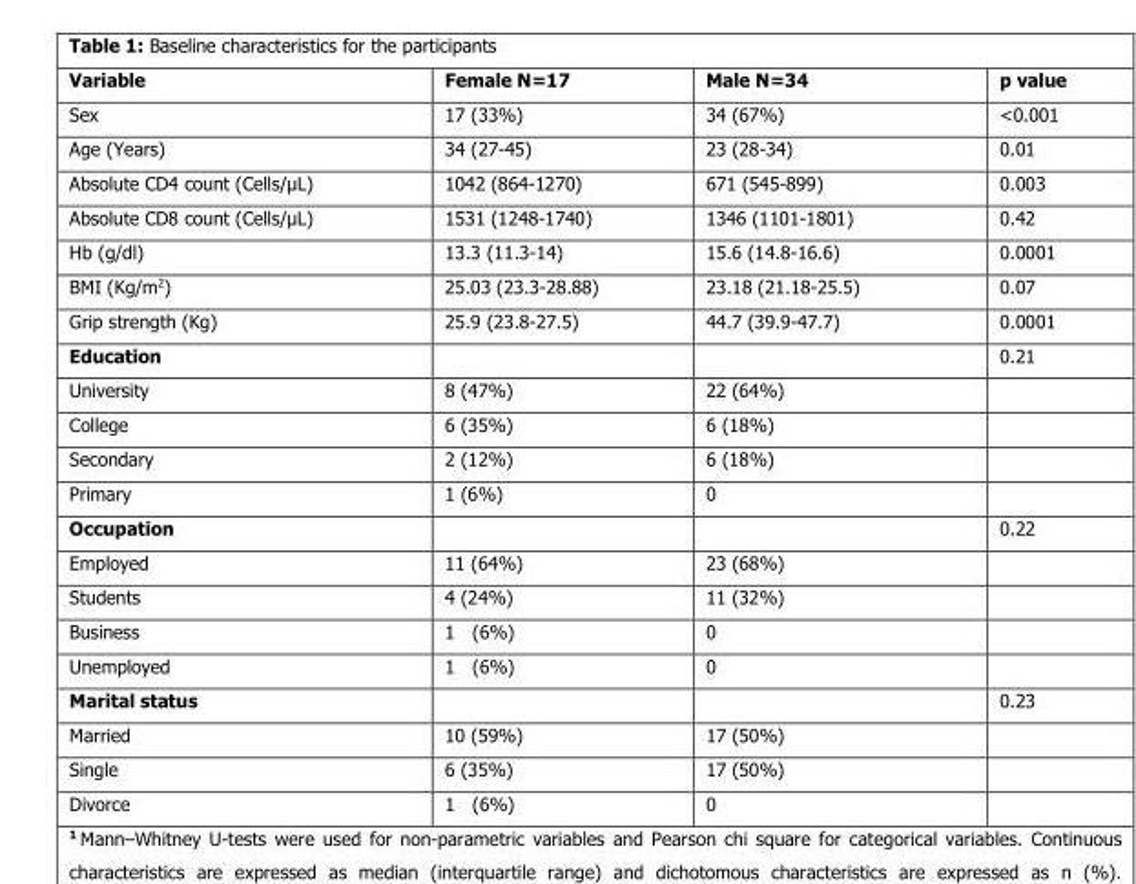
<table><thead><tr><td>Variable</td><td>Female N=17</td><td>Male N=34</td><td>p value</td></tr></thead><tbody><tr><td>Sex</td><td>17 (33%)</td><td>34 (67%)</td><td>&lt;0.001</td></tr><tr><td>Age (Years)</td><td>34 (27-45)</td><td>23 (28-34)</td><td>0.01</td></tr><tr><td>Absolute CD4 count (Cells/μL)</td><td>1042 (864-1270)</td><td>671 (545-899)</td><td>0.003</td></tr><tr><td>Absolute CD8 count (Cells/μL)</td><td>1531 (1248-1740)</td><td>1346 (1101-1801)</td><td>0.42</td></tr><tr><td>Hb (g/dl)</td><td>13.3 (11.3-14)</td><td>15.6 (14.8-16.6)</td><td>0.0001</td></tr><tr><td>BMI (Kg/m<sup>2</sup>)</td><td>25.03 (23.3-28.88)</td><td>23.18 (21.18-25.5)</td><td>0.07</td></tr><tr><td>Grip strength (Kg)</td><td>25.9 (23.8-27.5)</td><td>44.7 (39.9-47.7)</td><td>0.0001</td></tr><tr><td>Education</td><td></td><td></td><td>0.21</td></tr><tr><td>University</td><td>8 (47%)</td><td>22 (64%)</td><td></td></tr><tr><td>College</td><td>6 (35%)</td><td>6 (18%)</td><td></td></tr><tr><td>Secondary</td><td>2 (12%)</td><td>6 (18%)</td><td></td></tr><tr><td>Primary</td><td>1 (6%)</td><td>0</td><td></td></tr><tr><td>Occupation</td><td></td><td></td><td>0.22</td></tr><tr><td>Employed</td><td>11 (64%)</td><td>23 (68%)</td><td></td></tr><tr><td>Students</td><td>4 (24%)</td><td>11 (32%)</td><td></td></tr><tr><td>Business</td><td>1 (6%)</td><td>0</td><td></td></tr><tr><td>Unemployed</td><td>1 (6%)</td><td>0</td><td></td></tr><tr><td>Marital status</td><td></td><td></td><td>0.23</td></tr><tr><td>Married</td><td>10 (59%)</td><td>17 (50%)</td><td></td></tr><tr><td>Single</td><td>6 (35%)</td><td>17 (50%)</td><td></td></tr><tr><td>Divorce</td><td>1 (6%)</td><td>0</td><td></td></tr></tbody></table>